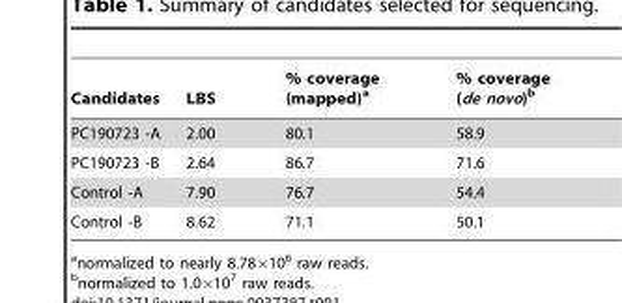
<table><thead><tr><td>Candidates</td><td>LBS</td><td>% coverage (mapped)<sup>a</sup></td><td>% coverage (de novo)<sup>b</sup></td></tr></thead><tbody><tr><td>PC190723 -A</td><td>2.00</td><td>80.1</td><td>58.9</td></tr><tr><td>PC190723 -B</td><td>2.64</td><td>86.7</td><td>71.6</td></tr><tr><td>Control -A</td><td>7.90</td><td>76.7</td><td>54.4</td></tr><tr><td>Control -B</td><td>8.62</td><td>71.1</td><td>50.1</td></tr></tbody></table>